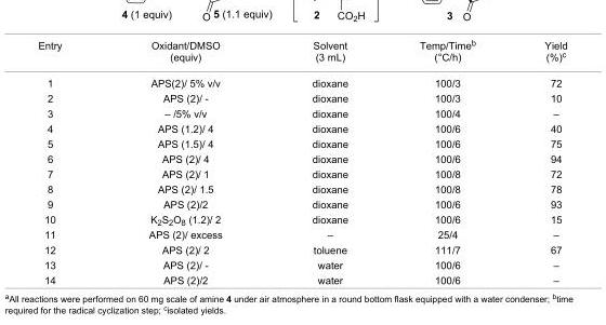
<table><tbody><tr><td>Entry</td><td>Oxidant/DMSO (equiv)</td><td>Solvent (3 mL)</td><td>Temp/Time<sup>b</sup> (°C/h)</td><td>Yield (%)<sup>c</sup></td></tr><tr><td>1</td><td>APS(2)/ 5% v/v</td><td>dioxane</td><td>100/3</td><td>72</td></tr><tr><td>2</td><td>APS (2)/ -</td><td>dioxane</td><td>100/3</td><td>10</td></tr><tr><td>3</td><td>– /5% v/v</td><td>dioxane</td><td>100/4</td><td>–</td></tr><tr><td>4</td><td>APS (1.2)/ 4</td><td>dioxane</td><td>100/6</td><td>40</td></tr><tr><td>5</td><td>APS (1.5)/ 4</td><td>dioxane</td><td>100/6</td><td>75</td></tr><tr><td>6</td><td>APS (2)/ 4</td><td>dioxane</td><td>100/6</td><td>94</td></tr><tr><td>7</td><td>APS (2)/ 1</td><td>dioxane</td><td>100/8</td><td>72</td></tr><tr><td>8</td><td>APS (2)/ 1.5</td><td>dioxane</td><td>100/8</td><td>78</td></tr><tr><td>9</td><td>APS (2)/2</td><td>dioxane</td><td>100/6</td><td>93</td></tr><tr><td>10</td><td>K<sub>2</sub>S<sub>2</sub>O<sub>8</sub> (1.2)/ 2</td><td>dioxane</td><td>100/6</td><td>15</td></tr><tr><td>11</td><td>APS (2)/ excess</td><td>–</td><td>25/4</td><td>–</td></tr><tr><td>12</td><td>APS (2)/ 2</td><td>toluene</td><td>111/7</td><td>67</td></tr><tr><td>13</td><td>APS (2)/ -</td><td>water</td><td>100/6</td><td>–</td></tr><tr><td>14</td><td>APS (2)/2</td><td>water</td><td>100/6</td><td>–</td></tr></tbody></table>